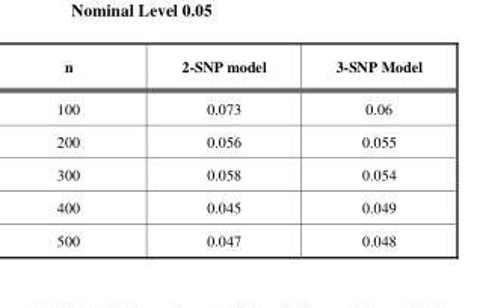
<table><thead><tr><td>n</td><td>2-SNP model</td><td>3-SNP Model</td></tr></thead><tbody><tr><td>100</td><td>0.073</td><td>0.06</td></tr><tr><td>200</td><td>0.056</td><td>0.055</td></tr><tr><td>300</td><td>0.058</td><td>0.054</td></tr><tr><td>400</td><td>0.045</td><td>0.049</td></tr><tr><td>500</td><td>0.047</td><td>0.048</td></tr></tbody></table>